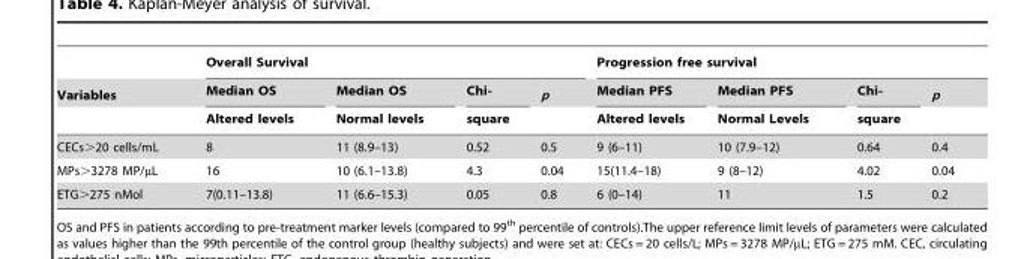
<table><thead><tr><td rowspan="3">Variables</td><td colspan="4">Overall Survival</td><td colspan="4">Progression free survival</td></tr><tr><td rowspan="2">Median OS Altered levels</td><td rowspan="2">Median OS Normal levels</td><td rowspan="2">Chi- square</td><td rowspan="2">p</td><td rowspan="2">Median PFS Altered levels</td><td rowspan="2">Median PFS Normal Levels</td><td rowspan="2">Chi- square</td><td rowspan="2">p</td></tr><tr></tr></thead><tbody><tr><td>CECs&gt;20 cells/mL</td><td>8</td><td>11 (8.9–13)</td><td>0.52</td><td>0.5</td><td>9 (6–11)</td><td>10 (7.9–12)</td><td>0.64</td><td>0.4</td></tr><tr><td>MPs&gt;3278 MP/µL</td><td>16</td><td>10 (6.1–13.8)</td><td>4.3</td><td>0.04</td><td>15(11.4–18)</td><td>9 (8–12)</td><td>4.02</td><td>0.04</td></tr><tr><td>ETG&gt;275 nMol</td><td>7(0.11–13.8)</td><td>11 (6.6–15.3)</td><td>0.05</td><td>0.8</td><td>6 (0–14)</td><td>11</td><td>1.5</td><td>0.2</td></tr></tbody></table>